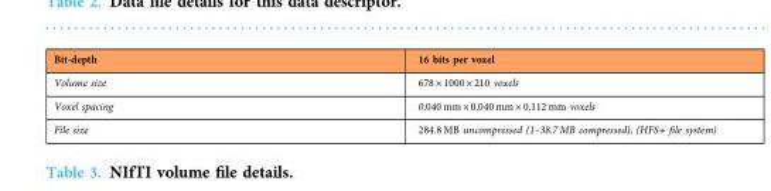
<table><thead><tr><td>Bit-depth</td><td>16 bits per voxel</td></tr></thead><tbody><tr><td>Volume size</td><td>678 × 1000 × 210 voxels</td></tr><tr><td>Voxel spacing</td><td>0.040 mm × 0.040 mm × 0.112 mm voxels</td></tr><tr><td>File size</td><td>284.8 MB uncompressed (1–38.7 MB compressed), (HFS+ file system)</td></tr></tbody></table>